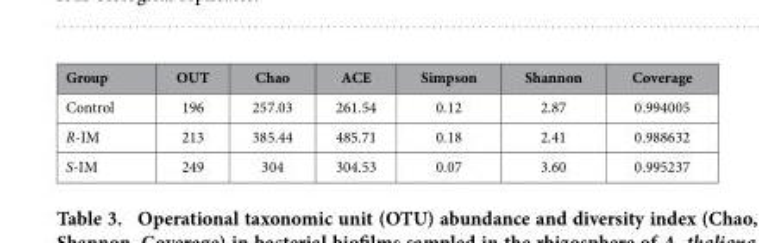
<table><thead><tr><td>Group</td><td>OUT</td><td>Chao</td><td>ACE</td><td>Simpson</td><td>Shannon</td><td>Coverage</td></tr></thead><tbody><tr><td>Control</td><td>196</td><td>257.03</td><td>261.54</td><td>0.12</td><td>2.87</td><td>0.994005</td></tr><tr><td>R-IM</td><td>213</td><td>385.44</td><td>485.71</td><td>0.18</td><td>2.41</td><td>0.988632</td></tr><tr><td>S-IM</td><td>249</td><td>304</td><td>304.53</td><td>0.07</td><td>3.60</td><td>0.995237</td></tr></tbody></table>